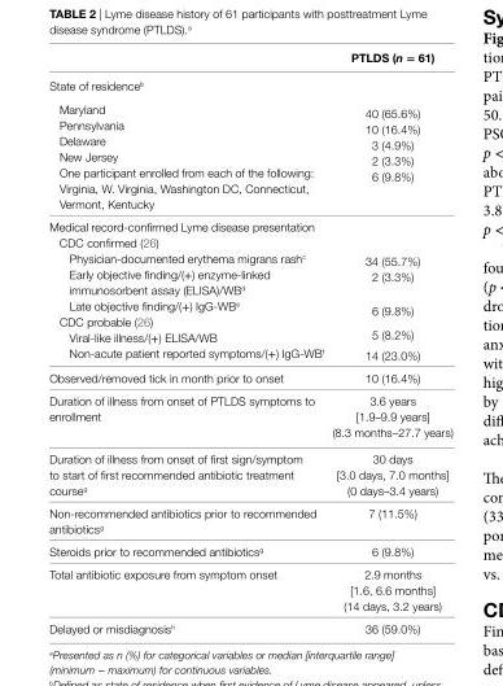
<table><thead><tr><td></td><td>PTlDs (n = 61)</td></tr></thead><tbody><tr><td>State of residence<sup>b</sup> Maryland Pennsylvania Delaware New Jersey One participant enrolled from each of the following: Virginia, W. Virginia, Washington DC, Connecticut, Vermont, Kentucky</td><td>40 (65.6%) 10 (16.4%) 3 (4.9%) 2 (3.3%) 6 (9.8%)</td></tr><tr><td>Medical record-confirmed Lyme disease presentation CDC confirmed (26) Physician-documented erythema migrans rash<sup>c</sup> Early objective finding/(+) enzyme-linked immunosorbent assay (ELISA)/WB<sup>d</sup> Late objective finding/(+) IgG-WB<sup>e</sup> CDC probable (26) Viral-like illness/(+) ELISA/WB Non-acute patient reported symptoms/(+) IgG-WB<sup>f</sup></td><td>34 (55.7%) 2 (3.3%) 6 (9.8%) 5 (8.2%) 14 (23.0%)</td></tr><tr><td>Observed/removed tick in month prior to onset</td><td>10 (16.4%)</td></tr><tr><td>Duration of illness from onset of PTLDS symptoms to enrollment</td><td>3.6 years [1.9–9.9 years] (8.3 months–27.7 years)</td></tr><tr><td>Duration of illness from onset of first sign/symptom to start of first recommended antibiotic treatment course<sup>g</sup></td><td>30 days [3.0 days, 7.0 months] (0 days–3.4 years)</td></tr><tr><td>Non-recommended antibiotics prior to recommended antibiotics<sup>g</sup></td><td>7 (11.5%)</td></tr><tr><td>Steroids prior to recommended antibiotics<sup>g</sup></td><td>6 (9.8%)</td></tr><tr><td>Total antibiotic exposure from symptom onset</td><td>2.9 months [1.6, 6.6 months] (14 days, 3.2 years)</td></tr><tr><td>Delayed or misdiagnosis<sup>h</sup></td><td>36 (59.0%)</td></tr></tbody></table>